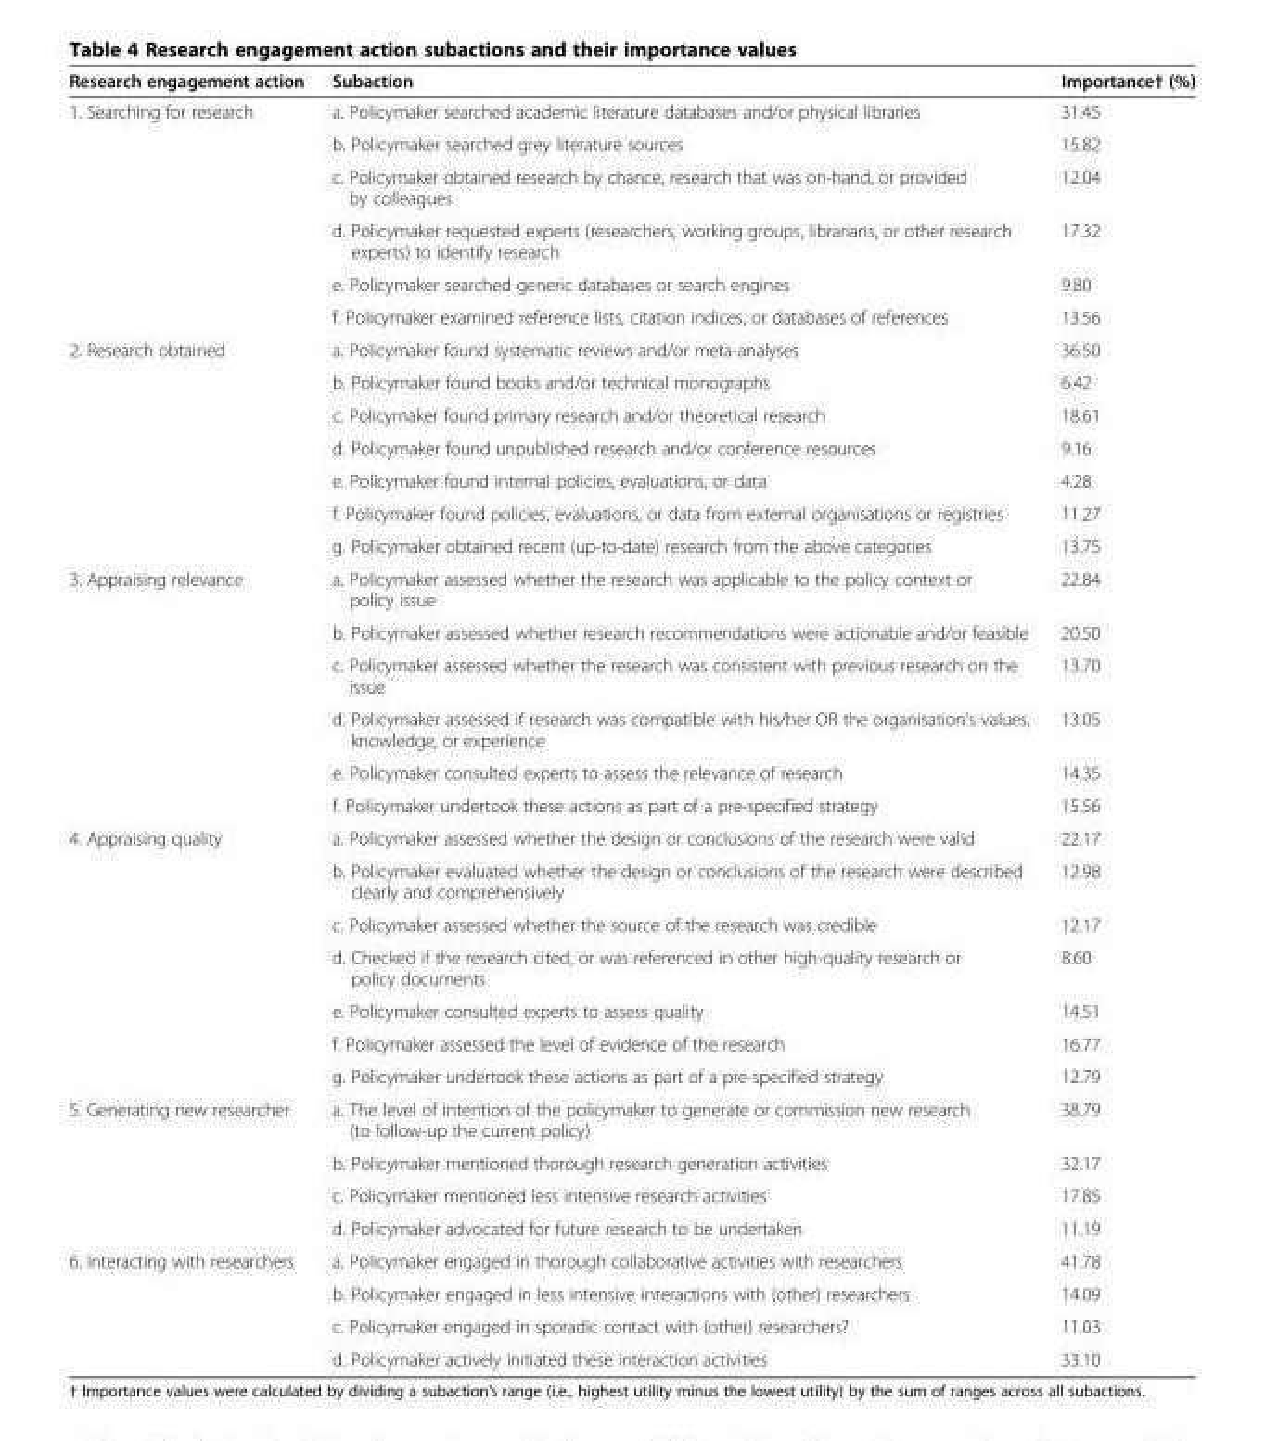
<table><thead><tr><td>Research engagement action</td><td>Subaction</td><td>Importance† (%)</td></tr></thead><tbody><tr><td rowspan="6">1. Searching for research</td><td>a. Policymaker searched academic literature databases and/or physical libraries</td><td>31.45</td></tr><tr><td>b. Policymaker searched grey literature sources</td><td>15.82</td></tr><tr><td>c. Policymaker obtained research by chance, research that was on-hand, or provided by colleagues</td><td>12.04</td></tr><tr><td>d. Policymaker requested experts (researchers, working groups, librarians, or other research experts) to identify research</td><td>17.32</td></tr><tr><td>e. Policymaker searched generic databases or search engines</td><td>9.80</td></tr><tr><td>f. Policymaker examined reference lists, citation indices, or databases of references</td><td>13.56</td></tr><tr><td rowspan="7">2. Research obtained</td><td>a. Policymaker found systematic reviews and/or meta-analyses</td><td>36.50</td></tr><tr><td>b. Policymaker found books and/or technical monographs</td><td>6.42</td></tr><tr><td>c. Policymaker found primary research and/or theoretical research</td><td>18.61</td></tr><tr><td>d. Policymaker found unpublished research and/or conference resources</td><td>9.16</td></tr><tr><td>e. Policymaker found internal policies, evaluations, or data</td><td>4.28</td></tr><tr><td>f. Policymaker found policies, evaluations, or data from external organisations or registries</td><td>11.27</td></tr><tr><td>g. Policymaker obtained recent (up-to-date) research from the above categories</td><td>13.75</td></tr><tr><td rowspan="6">3. Appraising relevance</td><td>a. Policymaker assessed whether the research was applicable to the policy context or policy issue</td><td>22.84</td></tr><tr><td>b. Policymaker assessed whether research recommendations were actionable and/or feasible</td><td>20.50</td></tr><tr><td>c. Policymaker assessed whether the research was consistent with previous research on the issue</td><td>13.70</td></tr><tr><td>d. Policymaker assessed if research was compatible with his/her OR the organisation&#x27;s values, knowledge, or experience</td><td>13.05</td></tr><tr><td>e. Policymaker consulted experts to assess the relevance of research</td><td>14.35</td></tr><tr><td>f. Policymaker undertook these actions as part of a pre-specified strategy</td><td>15.56</td></tr><tr><td rowspan="7">4. Appraising quality</td><td>a. Policymaker assessed whether the design or conclusions of the research were valid</td><td>22.17</td></tr><tr><td>b. Policymaker evaluated whether the design or conclusions of the research were described clearly and comprehensively</td><td>12.98</td></tr><tr><td>c. Policymaker assessed whether the source of the research was credible</td><td>12.17</td></tr><tr><td>d. Checked if the research cited, or was referenced in other high-quality research or policy documents</td><td>8.60</td></tr><tr><td>e. Policymaker consulted experts to assess quality</td><td>14.51</td></tr><tr><td>f. Policymaker assessed the level of evidence of the research</td><td>16.77</td></tr><tr><td>g. Policymaker undertook these actions as part of a pre-specified strategy</td><td>12.79</td></tr><tr><td rowspan="4">5. Generating new researcher</td><td>a. The level of intention of the policymaker to generate or commission new research (to follow-up the current policy)</td><td>38.79</td></tr><tr><td>b. Policymaker mentioned thorough research generation activities</td><td>32.17</td></tr><tr><td>c. Policymaker mentioned less intensive research activities</td><td>17.85</td></tr><tr><td>d. Policymaker advocated for future research to be undertaken</td><td>11.19</td></tr><tr><td rowspan="4">6. Interacting with researchers</td><td>a. Policymaker engaged in thorough collaborative activities with researchers</td><td>41.78</td></tr><tr><td>b. Policymaker engaged in less intensive interactions with (other) researchers</td><td>14.09</td></tr><tr><td>c. Policymaker engaged in sporadic contact with (other) researchers?</td><td>11.03</td></tr><tr><td>d. Policymaker actively initiated these interaction activities</td><td>33.10</td></tr></tbody></table>